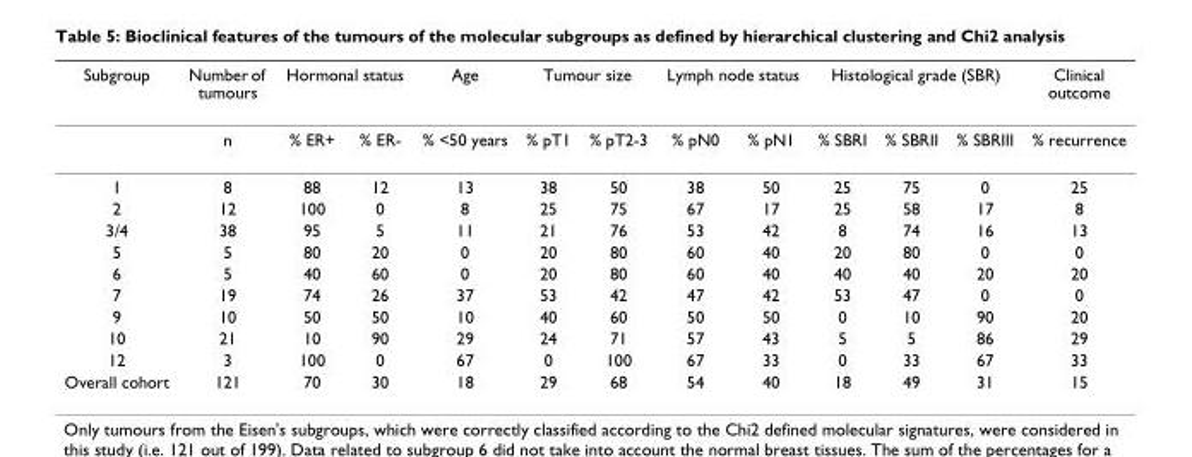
<table><thead><tr><td rowspan="2">Subgroup</td><td rowspan="2">Number of tumours n</td><td colspan="2">Hormonal status</td><td rowspan="2">Age % &lt;50 years</td><td colspan="2">Tumour size</td><td colspan="2">Lymph node status</td><td colspan="3">Histological grade (SBR)</td><td rowspan="2">Clinical outcome % recurrence</td></tr><tr><td>% ER+</td><td>% ER-</td><td>% pT1</td><td>% pT2-3</td><td>% pN0</td><td>% pN1</td><td>% SBRI</td><td>% SBRII</td><td>% SBRIII</td></tr></thead><tbody><tr><td>1</td><td>8</td><td>88</td><td>12</td><td>13</td><td>38</td><td>50</td><td>38</td><td>50</td><td>25</td><td>75</td><td>0</td><td>25</td></tr><tr><td>2</td><td>12</td><td>100</td><td>0</td><td>8</td><td>25</td><td>75</td><td>67</td><td>17</td><td>25</td><td>58</td><td>17</td><td>8</td></tr><tr><td>3/4</td><td>38</td><td>95</td><td>5</td><td>11</td><td>21</td><td>76</td><td>53</td><td>42</td><td>8</td><td>74</td><td>16</td><td>13</td></tr><tr><td>5</td><td>5</td><td>80</td><td>20</td><td>0</td><td>20</td><td>80</td><td>60</td><td>40</td><td>20</td><td>80</td><td>0</td><td>0</td></tr><tr><td>6</td><td>5</td><td>40</td><td>60</td><td>0</td><td>20</td><td>80</td><td>60</td><td>40</td><td>40</td><td>40</td><td>20</td><td>20</td></tr><tr><td>7</td><td>19</td><td>74</td><td>26</td><td>37</td><td>53</td><td>42</td><td>47</td><td>42</td><td>53</td><td>47</td><td>0</td><td>0</td></tr><tr><td>9</td><td>10</td><td>50</td><td>50</td><td>10</td><td>40</td><td>60</td><td>50</td><td>50</td><td>0</td><td>10</td><td>90</td><td>20</td></tr><tr><td>10</td><td>21</td><td>10</td><td>90</td><td>29</td><td>24</td><td>71</td><td>57</td><td>43</td><td>5</td><td>5</td><td>86</td><td>29</td></tr><tr><td>12</td><td>3</td><td>100</td><td>0</td><td>67</td><td>0</td><td>100</td><td>67</td><td>33</td><td>0</td><td>33</td><td>67</td><td>33</td></tr><tr><td>Overall cohort</td><td>121</td><td>70</td><td>30</td><td>18</td><td>29</td><td>68</td><td>54</td><td>40</td><td>18</td><td>49</td><td>31</td><td>15</td></tr></tbody></table>